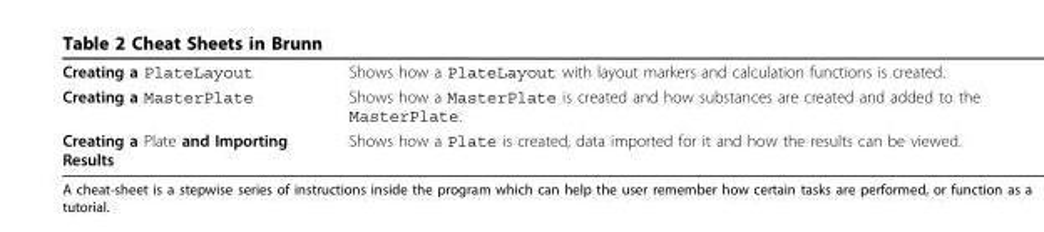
<table><tbody><tr><td>Creating a PlateLayout</td><td>Shows how a PlateLayout with layout markers and calculation functions is created.</td></tr><tr><td>Creating a MasterPlate</td><td>Shows how a MasterPlate is created and how substances are created and added to the MasterPlate.</td></tr><tr><td>Creating a Plate and Importing Results</td><td>Shows how a Plate is created, data imported for it and how the results can be viewed.</td></tr></tbody></table>